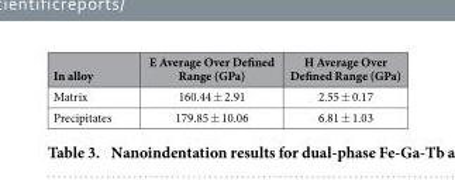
<table><thead><tr><td>In alloy</td><td>E Average Over Defined Range (GPa)</td><td>H Average Over Defined Range (GPa)</td></tr></thead><tbody><tr><td>Matrix</td><td>160.44 ± 2.91</td><td>2.55 ± 0.17</td></tr><tr><td>Precipitates</td><td>179.85 ± 10.06</td><td>6.81 ± 1.03</td></tr></tbody></table>